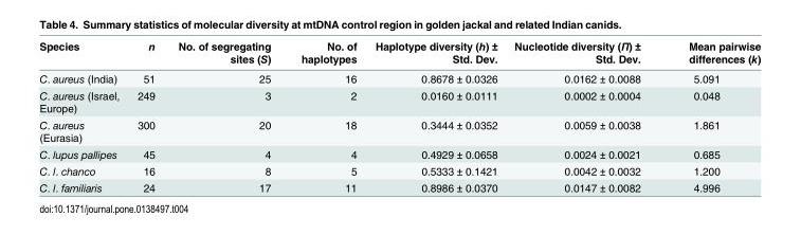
<table><thead><tr><td>Species</td><td>n</td><td>No. of segregating sites (S)</td><td>No. of haplotypes</td><td>Haplotype diversity (h) ± Std. Dev.</td><td>Nucleotide diversity (Π) ± Std. Dev.</td><td>Mean pairwise differences (k)</td></tr></thead><tbody><tr><td>C. aureus (India)</td><td>51</td><td>25</td><td>16</td><td>0.8678 ± 0.0326</td><td>0.0162 ± 0.0088</td><td>5.091</td></tr><tr><td>C. aureus (Israel, Europe)</td><td>249</td><td>3</td><td>2</td><td>0.0160 ± 0.0111</td><td>0.0002 ± 0.0004</td><td>0.048</td></tr><tr><td>C. aureus (Eurasia)</td><td>300</td><td>20</td><td>18</td><td>0.3444 ± 0.0352</td><td>0.0059 ± 0.0038</td><td>1.861</td></tr><tr><td>C. lupus pallipes</td><td>45</td><td>4</td><td>4</td><td>0.4929 ± 0.0658</td><td>0.0024 ± 0.0021</td><td>0.685</td></tr><tr><td>C. l. chanco</td><td>16</td><td>8</td><td>5</td><td>0.5333 ± 0.1421</td><td>0.0042 ± 0.0032</td><td>1.200</td></tr><tr><td>C. l. familiaris</td><td>24</td><td>17</td><td>11</td><td>0.8986 ± 0.0370</td><td>0.0147 ± 0.0082</td><td>4.996</td></tr></tbody></table>